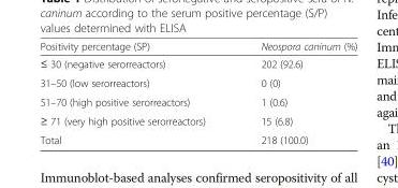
<table><thead><tr><td>Positivity percentage (SP)</td><td>Neospora caninum (%)</td></tr></thead><tbody><tr><td>≤ 30 (negative serorreactors)</td><td>202 (92.6)</td></tr><tr><td>31–50 (low serorreactors)</td><td>0 (0)</td></tr><tr><td>51–70 (high positive serorreactors)</td><td>1 (0.6)</td></tr><tr><td>≥ 71 (very high positive serorreactors)</td><td>15 (6.8)</td></tr><tr><td>Total</td><td>218 (100.0)</td></tr></tbody></table>